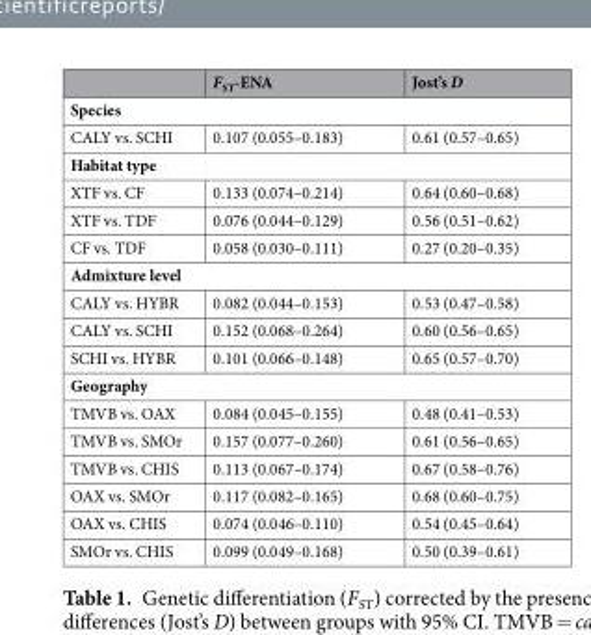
<table><thead><tr><td></td><td>F<sub>ST</sub>-ENA</td><td>Jost’s D</td></tr></thead><tbody><tr><td colspan="3">Species</td></tr><tr><td>CALY vs. SCHI</td><td>0.107 (0.055–0.183)</td><td>0.61 (0.57–0.65)</td></tr><tr><td colspan="3">Habitat type</td></tr><tr><td>XTF vs. CF</td><td>0.133 (0.074–0.214)</td><td>0.64 (0.60–0.68)</td></tr><tr><td>XTF vs. TDF</td><td>0.076 (0.044–0.129)</td><td>0.56 (0.51–0.62)</td></tr><tr><td>CF vs. TDF</td><td>0.058 (0.030–0.111)</td><td>0.27 (0.20–0.35)</td></tr><tr><td colspan="3">Admixture level</td></tr><tr><td>CALY vs. HYBR</td><td>0.082 (0.044–0.153)</td><td>0.53 (0.47–0.58)</td></tr><tr><td>CALY vs. SCHI</td><td>0.152 (0.068–0.264)</td><td>0.60 (0.56–0.65)</td></tr><tr><td>SCHI vs. HYBR</td><td>0.101 (0.066–0.148)</td><td>0.65 (0.57–0.70)</td></tr><tr><td colspan="3">Geography</td></tr><tr><td>TMVB vs. OAX</td><td>0.084 (0.045–0.155)</td><td>0.48 (0.41–0.53)</td></tr><tr><td>TMVB vs. SMOr</td><td>0.157 (0.077–0.260)</td><td>0.61 (0.56–0.65)</td></tr><tr><td>TMVB vs. CHIS</td><td>0.113 (0.067–0.174)</td><td>0.67 (0.58–0.76)</td></tr><tr><td>OAX vs. SMOr</td><td>0.117 (0.082–0.165)</td><td>0.68 (0.60–0.75)</td></tr><tr><td>OAX vs. CHIS</td><td>0.074 (0.046–0.110)</td><td>0.54 (0.45–0.64)</td></tr><tr><td>SMOr vs. CHIS</td><td>0.099 (0.049–0.168)</td><td>0.50 (0.39–0.61)</td></tr></tbody></table>